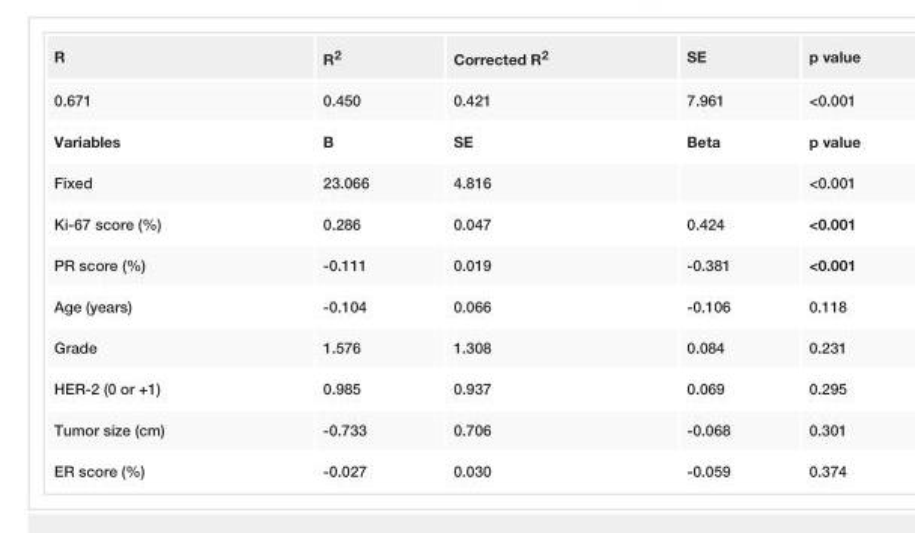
<table><tbody><tr><td>R</td><td>R<sup>2</sup></td><td>Corrected R<sup>2</sup></td><td>SE</td><td>p value</td></tr><tr><td>0.671</td><td>0.450</td><td>0.421</td><td>7.961</td><td>&lt;0.001</td></tr><tr><td>Variables</td><td>B</td><td>SE</td><td>Beta</td><td>p value</td></tr><tr><td>Fixed</td><td>23.066</td><td>4.816</td><td></td><td>&lt;0.001</td></tr><tr><td>Ki-67 score (%)</td><td>0.286</td><td>0.047</td><td>0.424</td><td>&lt;0.001</td></tr><tr><td>PR score (%)</td><td>-0.111</td><td>0.019</td><td>-0.381</td><td>&lt;0.001</td></tr><tr><td>Age (years)</td><td>-0.104</td><td>0.066</td><td>-0.106</td><td>0.118</td></tr><tr><td>Grade</td><td>1.576</td><td>1.308</td><td>0.084</td><td>0.231</td></tr><tr><td>HER-2 (0 or +1)</td><td>0.985</td><td>0.937</td><td>0.069</td><td>0.295</td></tr><tr><td>Tumor size (cm)</td><td>-0.733</td><td>0.706</td><td>-0.068</td><td>0.301</td></tr><tr><td>ER score (%)</td><td>-0.027</td><td>0.030</td><td>-0.059</td><td>0.374</td></tr></tbody></table>